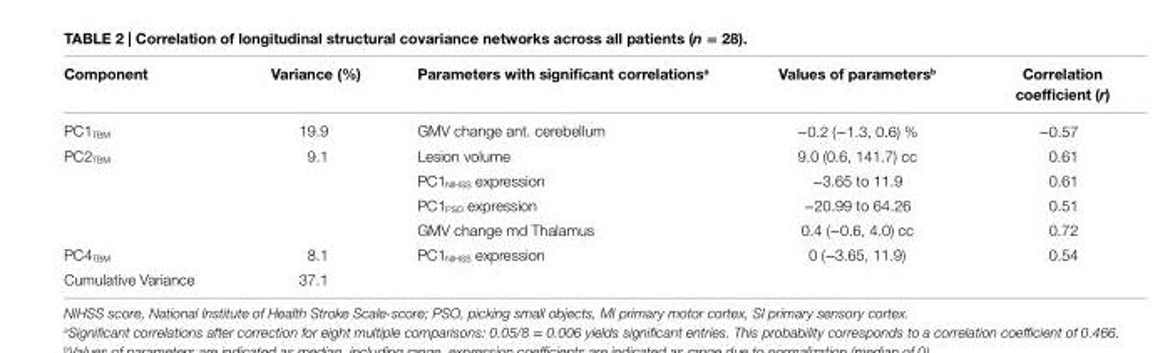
<table><thead><tr><td>component</td><td>Variance (%)</td><td>Parameters with significant correlations<sup>a</sup></td><td>Values of parameters<sup>b</sup></td><td>correlation coefficient (r)</td></tr></thead><tbody><tr><td>PC1<sub>TBM</sub></td><td>19.9</td><td>GMV change ant. cerebellum</td><td>−0.2 (−1.3, 0.6) %</td><td>−0.57</td></tr><tr><td rowspan="4">PC2<sub>TBM</sub></td><td>9.1</td><td>Lesion volume</td><td>9.0 (0.6, 141.7) cc</td><td>0.61</td></tr><tr><td></td><td>PC1<sub>NIHSS</sub> expression</td><td>−3.65 to 11.9</td><td>0.61</td></tr><tr><td></td><td>PC1<sub>PSO</sub> expression</td><td>−20.99 to 64.26</td><td>0.51</td></tr><tr><td></td><td>GMV change md Thalamus</td><td>0.4 (−0.6, 4.0) cc</td><td>0.72</td></tr><tr><td>PC4<sub>TBM</sub></td><td>8.1</td><td>PC1<sub>NIHSS</sub> expression</td><td>0 (−3.65, 11.9)</td><td>0.54</td></tr><tr><td>Cumulative Variance</td><td>37.1</td><td></td><td></td><td></td></tr></tbody></table>